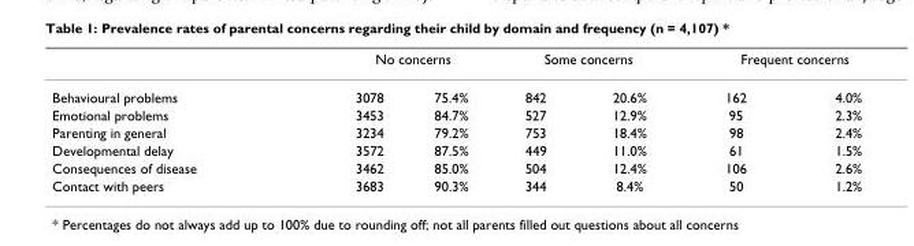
<table><thead><tr><td rowspan="2">Behavioural problems</td><td colspan="2">No concerns</td><td colspan="2">Some concerns</td><td colspan="2">Frequent concerns</td></tr><tr><td>3078</td><td>75.4%</td><td>842</td><td>20.6%</td><td>162</td><td>4.0%</td></tr></thead><tbody><tr><td>Emotional problems</td><td>3453</td><td>84.7%</td><td>527</td><td>12.9%</td><td>95</td><td>2.3%</td></tr><tr><td>Parenting in general</td><td>3234</td><td>79.2%</td><td>753</td><td>18.4%</td><td>98</td><td>2.4%</td></tr><tr><td>Developmental delay</td><td>3572</td><td>87.5%</td><td>449</td><td>11.0%</td><td>61</td><td>1.5%</td></tr><tr><td>Consequences of disease</td><td>3462</td><td>85.0%</td><td>504</td><td>12.4%</td><td>106</td><td>2.6%</td></tr><tr><td>Contact with peers</td><td>3683</td><td>90.3%</td><td>344</td><td>8.4%</td><td>50</td><td>1.2%</td></tr></tbody></table>